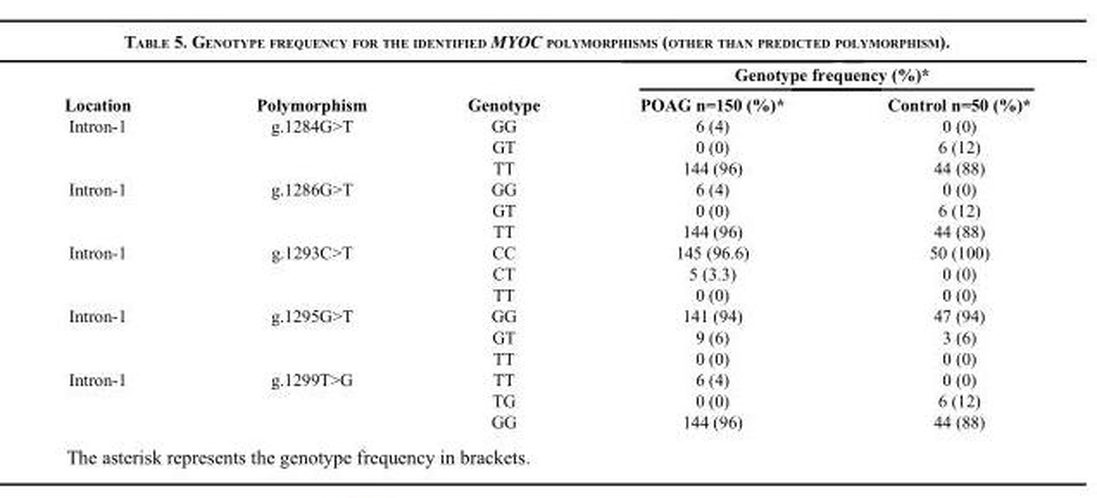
<table><thead><tr><td rowspan="2">Location</td><td rowspan="2">Polymorphism</td><td rowspan="2">Genotype</td><td colspan="2">Genotype frequency (%)*</td></tr><tr><td>POAG n=150 (%)*</td><td>Control n=50 (%)*</td></tr></thead><tbody><tr><td rowspan="3">Intron-1</td><td>g.1284G&gt;T</td><td>GG</td><td>6 (4)</td><td>0 (0)</td></tr><tr><td></td><td>GT</td><td>0 (0)</td><td>6 (12)</td></tr><tr><td></td><td>TT</td><td>144 (96)</td><td>44 (88)</td></tr><tr><td rowspan="3">Intron-1</td><td>g.1286G&gt;T</td><td>GG</td><td>6 (4)</td><td>0 (0)</td></tr><tr><td></td><td>GT</td><td>0 (0)</td><td>6 (12)</td></tr><tr><td></td><td>TT</td><td>144 (96)</td><td>44 (88)</td></tr><tr><td rowspan="3">Intron-1</td><td>g.1293C&gt;T</td><td>CC</td><td>145 (96.6)</td><td>50 (100)</td></tr><tr><td></td><td>CT</td><td>5 (3.3)</td><td>0 (0)</td></tr><tr><td></td><td>TT</td><td>0 (0)</td><td>0 (0)</td></tr><tr><td rowspan="3">Intron-1</td><td>g.1295G&gt;T</td><td>GG</td><td>141 (94)</td><td>47 (94)</td></tr><tr><td></td><td>GT</td><td>9 (6)</td><td>3 (6)</td></tr><tr><td></td><td>TT</td><td>0 (0)</td><td>0 (0)</td></tr><tr><td rowspan="3">Intron-1</td><td>g.1299T&gt;G</td><td>TT</td><td>6 (4)</td><td>0 (0)</td></tr><tr><td></td><td>TG</td><td>0 (0)</td><td>6 (12)</td></tr><tr><td></td><td>GG</td><td>144 (96)</td><td>44 (88)</td></tr></tbody></table>